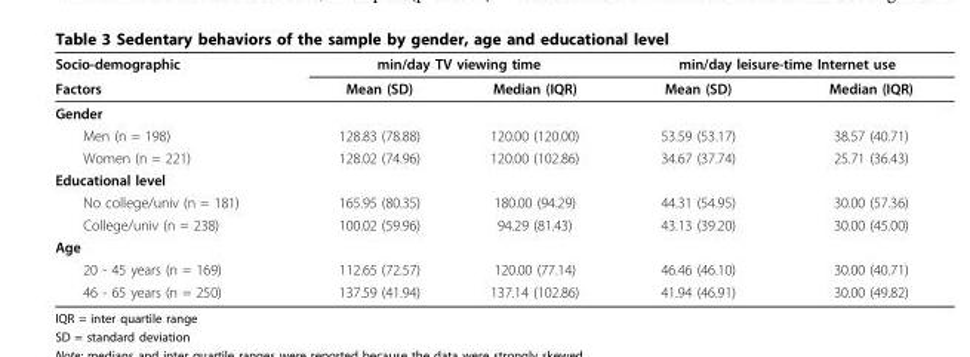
<table><thead><tr><td rowspan="2">Socio-demographic Factors</td><td colspan="2">min/day TV viewing time</td><td colspan="2">min/day leisure-time Internet use</td></tr><tr><td>Mean (SD)</td><td>Median (IQR)</td><td>Mean (SD)</td><td>Median (IQR)</td></tr></thead><tbody><tr><td colspan="5">Gender</td></tr><tr><td>Men (n = 198)</td><td>128.83 (78.88)</td><td>120.00 (120.00)</td><td>53.59 (53.17)</td><td>38.57 (40.71)</td></tr><tr><td>Women (n = 221)</td><td>128.02 (74.96)</td><td>120.00 (102.86)</td><td>34.67 (37.74)</td><td>25.71 (36.43)</td></tr><tr><td colspan="5">Educational level</td></tr><tr><td>No college/univ (n = 181)</td><td>165.95 (80.35)</td><td>180.00 (94.29)</td><td>44.31 (54.95)</td><td>30.00 (57.36)</td></tr><tr><td>College/univ (n = 238)</td><td>100.02 (59.96)</td><td>94.29 (81.43)</td><td>43.13 (39.20)</td><td>30.00 (45.00)</td></tr><tr><td colspan="5">Age</td></tr><tr><td>20 - 45 years (n = 169)</td><td>112.65 (72.57)</td><td>120.00 (77.14)</td><td>46.46 (46.10)</td><td>30.00 (40.71)</td></tr><tr><td>46 - 65 years (n = 250)</td><td>137.59 (41.94)</td><td>137.14 (102.86)</td><td>41.94 (46.91)</td><td>30.00 (49.82)</td></tr></tbody></table>